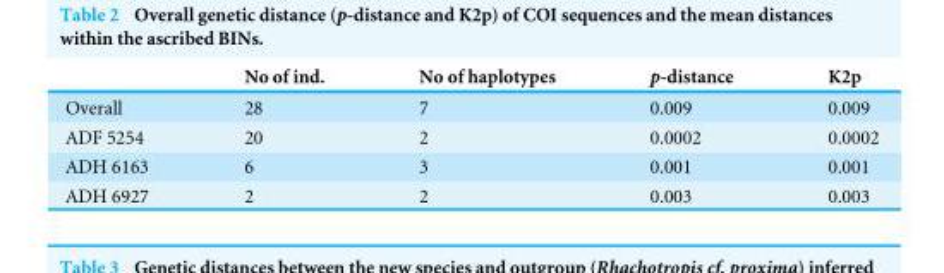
<table><thead><tr><td></td><td>No of ind.</td><td>No of haplotypes</td><td>p-distance</td><td>K2p</td></tr></thead><tbody><tr><td>Overall</td><td>28</td><td>7</td><td>0.009</td><td>0.009</td></tr><tr><td>ADF 5254</td><td>20</td><td>2</td><td>0.0002</td><td>0.0002</td></tr><tr><td>ADH 6163</td><td>6</td><td>3</td><td>0.001</td><td>0.001</td></tr><tr><td>ADH 6927</td><td>2</td><td>2</td><td>0.003</td><td>0.003</td></tr></tbody></table>